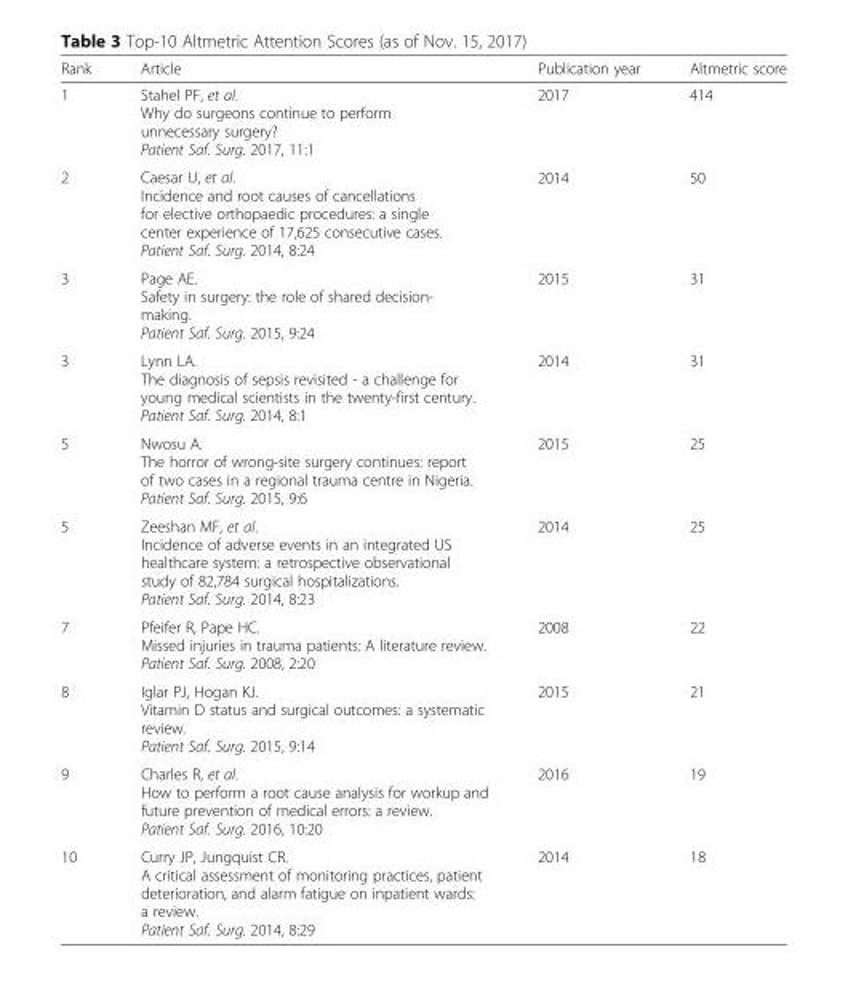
<table><thead><tr><td>Rank</td><td>Article</td><td>Publication year</td><td>Altmetric score</td></tr></thead><tbody><tr><td>1</td><td>Stahel PF, et al. Why do surgeons continue to perform unnecessary surgery? Patient Saf. Surg. 2017, 11:1</td><td>2017</td><td>414</td></tr><tr><td>2</td><td>Caesar U, et al. Incidence and root causes of cancellations for elective orthopaedic procedures: a single center experience of 17,625 consecutive cases. Patient Saf. Surg. 2014, 8:24</td><td>2014</td><td>50</td></tr><tr><td>3</td><td>Page AE. Safety in surgery: the role of shared decision- making. Patient Saf. Surg. 2015, 9:24</td><td>2015</td><td>31</td></tr><tr><td>3</td><td>Lynn LA. The diagnosis of sepsis revisited - a challenge for young medical scientists in the twenty-first century. Patient Saf. Surg. 2014, 8:1</td><td>2014</td><td>31</td></tr><tr><td>5</td><td>Nwosu A. The horror of wrong-site surgery continues: report of two cases in a regional trauma centre in Nigeria. Patient Saf. Surg. 2015, 9:6</td><td>2015</td><td>25</td></tr><tr><td>5</td><td>Zeeshan MF, et al. Incidence of adverse events in an integrated US healthcare system: a retrospective observational study of 82,784 surgical hospitalizations. Patient Saf. Surg. 2014, 8:23</td><td>2014</td><td>25</td></tr><tr><td>7</td><td>Pfeifer R, Pape HC. Missed injuries in trauma patients: A literature review. Patient Saf. Surg. 2008, 2:20</td><td>2008</td><td>22</td></tr><tr><td>8</td><td>Iglar PJ, Hogan KJ. Vitamin D status and surgical outcomes: a systematic review. Patient Saf. Surg. 2015, 9:14</td><td>2015</td><td>21</td></tr><tr><td>9</td><td>Charles R, et al. How to perform a root cause analysis for workup and future prevention of medical errors: a review. Patient Saf. Surg. 2016, 10:20</td><td>2016</td><td>19</td></tr><tr><td>10</td><td>Curry JP, Jungquist CR. A critical assessment of monitoring practices, patient deterioration, and alarm fatigue on inpatient wards: a review. Patient Saf. Surg. 2014, 8:29</td><td>2014</td><td>18</td></tr></tbody></table>